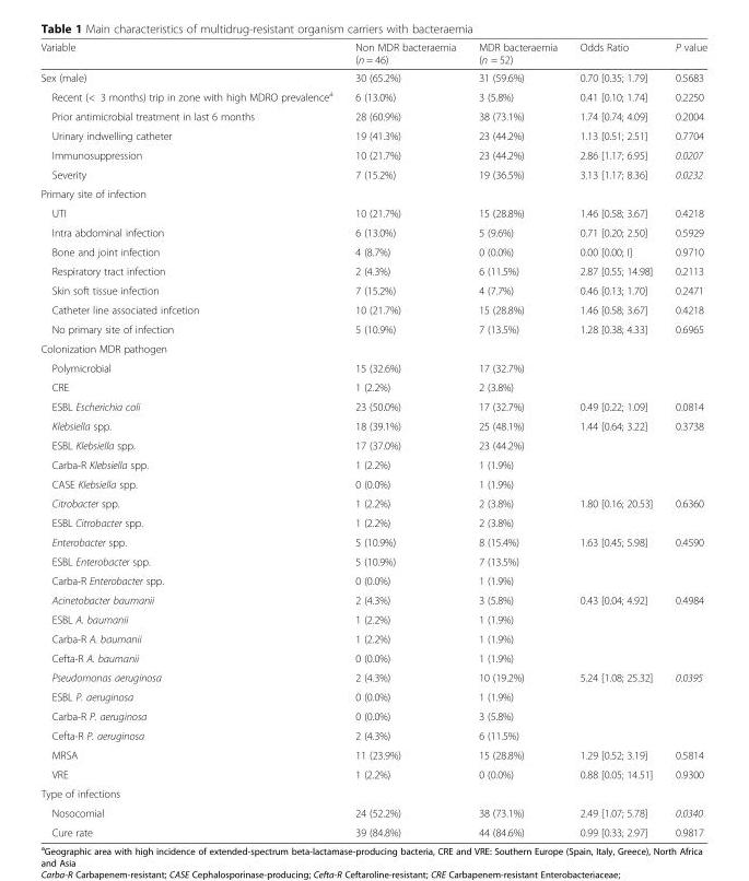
<table><thead><tr><td>Variable</td><td>Non MDR bacteraemia (n = 46)</td><td>MDR bacteraemia (n = 52)</td><td>Odds Ratio</td><td>P value</td></tr></thead><tbody><tr><td>Sex (male)</td><td>30 (65.2%)</td><td>31 (59.6%)</td><td>0.70 [0.35; 1.79]</td><td>0.5683</td></tr><tr><td>Recent (&lt; 3 months) trip in zone with high MDRO prevalence<sup>a</sup></td><td>6 (13.0%)</td><td>3 (5.8%)</td><td>0.41 [0.10; 1.74]</td><td>0.2250</td></tr><tr><td>Prior antimicrobial treatment in last 6 months</td><td>28 (60.9%)</td><td>38 (73.1%)</td><td>1.74 [0.74; 4.09]</td><td>0.2004</td></tr><tr><td>Urinary indwelling catheter</td><td>19 (41.3%)</td><td>23 (44.2%)</td><td>1.13 [0.51; 2.51]</td><td>0.7704</td></tr><tr><td>Immunosuppression</td><td>10 (21.7%)</td><td>23 (44.2%)</td><td>2.86 [1.17; 6.95]</td><td>0.0207</td></tr><tr><td>Severity</td><td>7 (15.2%)</td><td>19 (36.5%)</td><td>3.13 [1.17; 8.36]</td><td>0.0232</td></tr><tr><td colspan="5">Primary site of infection</td></tr><tr><td>UTI</td><td>10 (21.7%)</td><td>15 (28.8%)</td><td>1.46 [0.58; 3.67]</td><td>0.4218</td></tr><tr><td>Intra abdominal infection</td><td>6 (13.0%)</td><td>5 (9.6%)</td><td>0.71 [0.20; 2.50]</td><td>0.5929</td></tr><tr><td>Bone and joint infection</td><td>4 (8.7%)</td><td>0 (0.0%)</td><td>0.00 [0.00; I]</td><td>0.9710</td></tr><tr><td>Respiratory tract infection</td><td>2 (4.3%)</td><td>6 (11.5%)</td><td>2.87 [0.55; 14.98]</td><td>0.2113</td></tr><tr><td>Skin soft tissue infection</td><td>7 (15.2%)</td><td>4 (7.7%)</td><td>0.46 [0.13; 1.70]</td><td>0.2471</td></tr><tr><td>Catheter line associated infcetion</td><td>10 (21.7%)</td><td>15 (28.8%)</td><td>1.46 [0.58; 3.67]</td><td>0.4218</td></tr><tr><td>No primary site of infection</td><td>5 (10.9%)</td><td>7 (13.5%)</td><td>1.28 [0.38; 4.33]</td><td>0.6965</td></tr><tr><td colspan="5">Colonization MDR pathogen</td></tr><tr><td>Polymicrobial</td><td>15 (32.6%)</td><td>17 (32.7%)</td><td></td><td></td></tr><tr><td>CRE</td><td>1 (2.2%)</td><td>2 (3.8%)</td><td></td><td></td></tr><tr><td>ESBL Escherichia coli</td><td>23 (50.0%)</td><td>17 (32.7%)</td><td>0.49 [0.22; 1.09]</td><td>0.0814</td></tr><tr><td>Klebsiella spp.</td><td>18 (39.1%)</td><td>25 (48.1%)</td><td>1.44 [0.64; 3.22]</td><td>0.3738</td></tr><tr><td>ESBL Klebsiella spp.</td><td>17 (37.0%)</td><td>23 (44.2%)</td><td></td><td></td></tr><tr><td>Carba-R Klebsiella spp.</td><td>1 (2.2%)</td><td>1 (1.9%)</td><td></td><td></td></tr><tr><td>CASE Klebsiella spp.</td><td>0 (0.0%)</td><td>1 (1.9%)</td><td></td><td></td></tr><tr><td>Citrobacter spp.</td><td>1 (2.2%)</td><td>2 (3.8%)</td><td>1.80 [0.16; 20.53]</td><td>0.6360</td></tr><tr><td>ESBL Citrobacter spp.</td><td>1 (2.2%)</td><td>2 (3.8%)</td><td></td><td></td></tr><tr><td>Enterobacter spp.</td><td>5 (10.9%)</td><td>8 (15.4%)</td><td>1.63 [0.45; 5.98]</td><td>0.4590</td></tr><tr><td>ESBL Enterobacter spp.</td><td>5 (10.9%)</td><td>7 (13.5%)</td><td></td><td></td></tr><tr><td>Carba-R Enterobacter spp.</td><td>0 (0.0%)</td><td>1 (1.9%)</td><td></td><td></td></tr><tr><td>Acinetobacter baumanii</td><td>2 (4.3%)</td><td>3 (5.8%)</td><td>0.43 [0.04; 4.92]</td><td>0.4984</td></tr><tr><td>ESBL A. baumanii</td><td>1 (2.2%)</td><td>1 (1.9%)</td><td></td><td></td></tr><tr><td>Carba-R A. baumanii</td><td>1 (2.2%)</td><td>1 (1.9%)</td><td></td><td></td></tr><tr><td>Cefta-R A. baumanii</td><td>0 (0.0%)</td><td>1 (1.9%)</td><td></td><td></td></tr><tr><td>Pseudomonas aeruginosa</td><td>2 (4.3%)</td><td>10 (19.2%)</td><td>5.24 [1.08; 25.32]</td><td>0.0395</td></tr><tr><td>ESBL P. aeruginosa</td><td>0 (0.0%)</td><td>1 (1.9%)</td><td></td><td></td></tr><tr><td>Carba-R P. aeruginosa</td><td>0 (0.0%)</td><td>3 (5.8%)</td><td></td><td></td></tr><tr><td>Cefta-R P. aeruginosa</td><td>2 (4.3%)</td><td>6 (11.5%)</td><td></td><td></td></tr><tr><td>MRSA</td><td>11 (23.9%)</td><td>15 (28.8%)</td><td>1.29 [0.52; 3.19]</td><td>0.5814</td></tr><tr><td>VRE</td><td>1 (2.2%)</td><td>0 (0.0%)</td><td>0.88 [0.05; 14.51]</td><td>0.9300</td></tr><tr><td colspan="5">Type of infections</td></tr><tr><td>Nosocomial</td><td>24 (52.2%)</td><td>38 (73.1%)</td><td>2.49 [1.07; 5.78]</td><td>0.0340</td></tr><tr><td>Cure rate</td><td>39 (84.8%)</td><td>44 (84.6%)</td><td>0.99 [0.33; 2.97]</td><td>0.9817</td></tr></tbody></table>